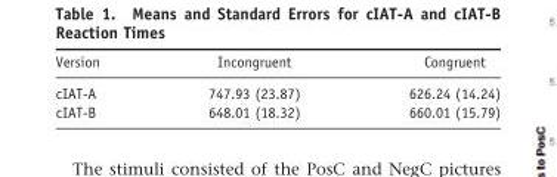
<table><thead><tr><td>Version</td><td>Incongruent</td><td>Congruent</td></tr></thead><tbody><tr><td>cIAT-A</td><td>747.93 (23.87)</td><td>626.24 (14.24)</td></tr><tr><td>cIAT-B</td><td>648.01 (18.32)</td><td>660.01 (15.79)</td></tr></tbody></table>